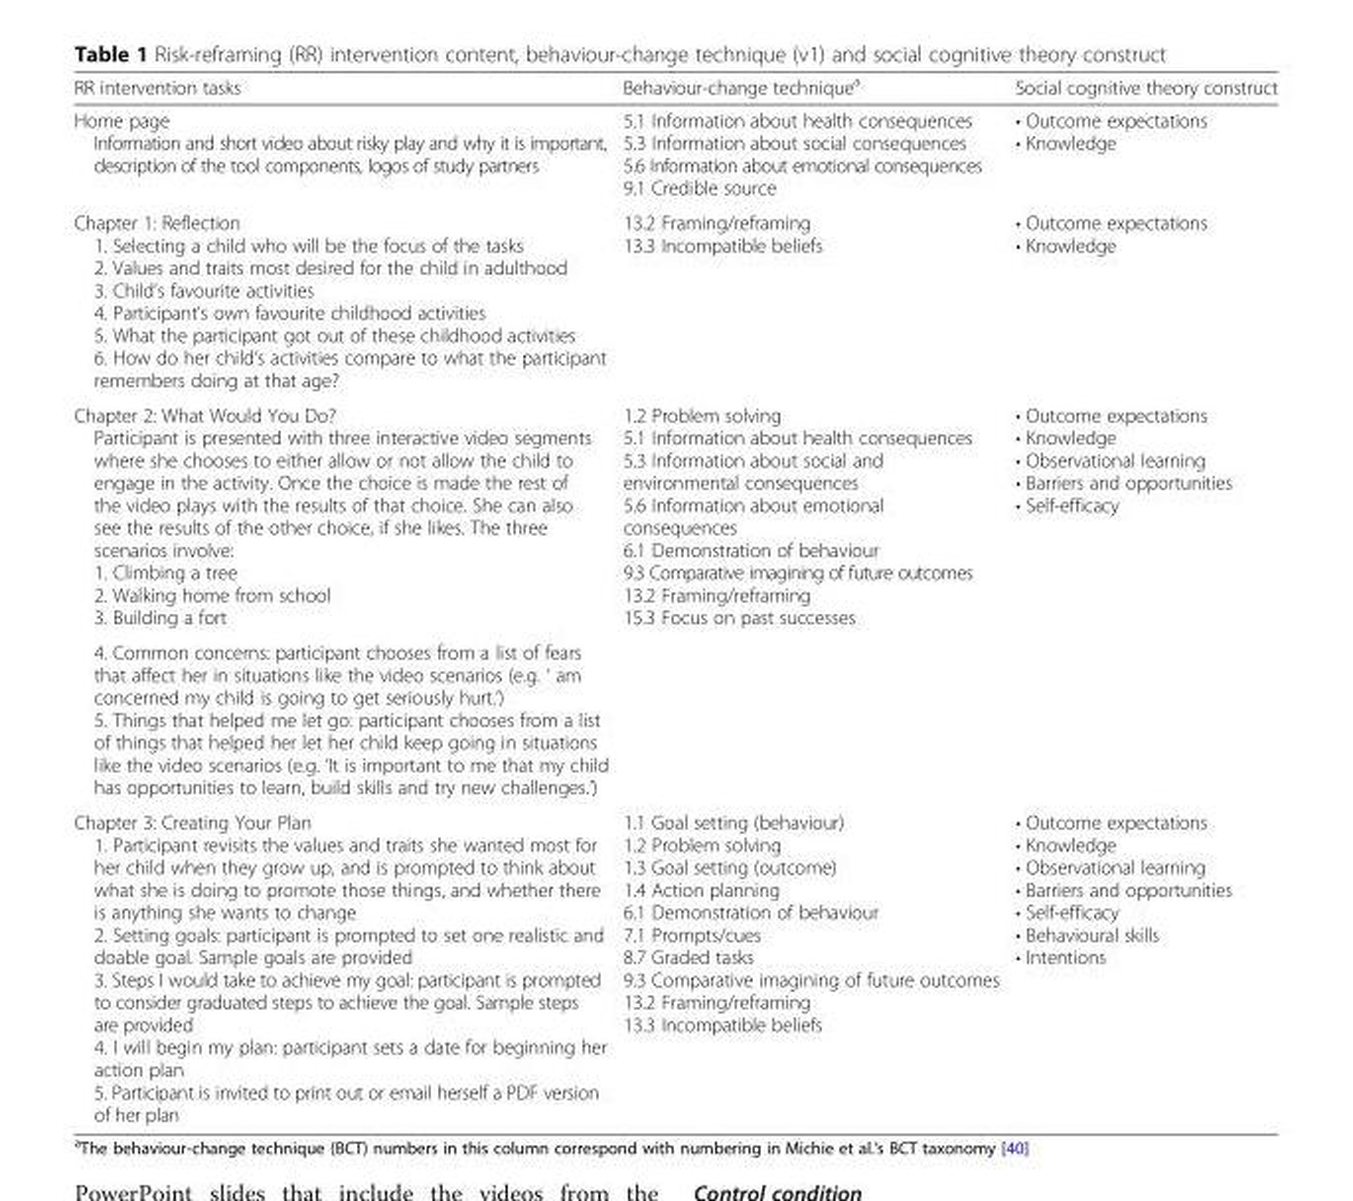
<table><thead><tr><td>RR intervention tasks</td><td>Behaviour-change technique<sup>a</sup></td><td>Social cognitive theory construct</td></tr></thead><tbody><tr><td>Home page Information and short video about risky play and why it is important, description of the tool components, logos of study partners</td><td>5.1 Information about health consequences 5.3 Information about social consequences 5.6 Information about emotional consequences 9.1 Credible source</td><td>• Outcome expectations • Knowledge</td></tr><tr><td>Chapter 1: Reflection 1. Selecting a child who will be the focus of the tasks 2. Values and traits most desired for the child in adulthood 3. Child’s favourite activities 4. Participant’s own favourite childhood activities 5. What the participant got out of these childhood activities 6. How do her child’s activities compare to what the participant remembers doing at that age?</td><td>13.2 Framing/reframing 13.3 Incompatible beliefs</td><td>• Outcome expectations • Knowledge</td></tr><tr><td>Chapter 2: What Would You Do? Participant is presented with three interactive video segments where she chooses to either allow or not allow the child to engage in the activity. Once the choice is made the rest of the video plays with the results of that choice. She can also see the results of the other choice, if she likes. The three scenarios involve: 1. Climbing a tree 2. Walking home from school 3. Building a fort</td><td rowspan="2">1.2 Problem solving 5.1 Information about health consequences 5.3 Information about social and environmental consequences 5.6 Information about emotional consequences 6.1 Demonstration of behaviour 9.3 Comparative imagining of future outcomes 13.2 Framing/reframing 15.3 Focus on past successes</td><td rowspan="2">• Outcome expectations • Knowledge • Observational learning • Barriers and opportunities • Self-efficacy</td></tr><tr><td>4. Common concerns: participant chooses from a list of fears that affect her in situations like the video scenarios (e.g. ‘ am concerned my child is going to get seriously hurt.’) 5. Things that helped me let go: participant chooses from a list of things that helped her let her child keep going in situations like the video scenarios (e.g. ‘It is important to me that my child has opportunities to learn, build skills and try new challenges.’)</td></tr><tr><td>Chapter 3: Creating Your Plan 1. Participant revisits the values and traits she wanted most for her child when they grow up, and is prompted to think about what she is doing to promote those things, and whether there is anything she wants to change 2. Setting goals: participant is prompted to set one realistic and doable goal. Sample goals are provided 3. Steps I would take to achieve my goal: participant is prompted to consider graduated steps to achieve the goal. Sample steps are provided 4. I will begin my plan: participant sets a date for beginning her action plan 5. Participant is invited to print out or email herself a PDF version of her plan</td><td>1.1 Goal setting (behaviour) 1.2 Problem solving 1.3 Goal setting (outcome) 1.4 Action planning 6.1 Demonstration of behaviour 7.1 Prompts/cues 8.7 Graded tasks 9.3 Comparative imagining of future outcomes 13.2 Framing/reframing 13.3 Incompatible beliefs</td><td>• Outcome expectations • Knowledge • Observational learning • Barriers and opportunities • Self-efficacy • Behavioural skills • Intentions</td></tr></tbody></table>